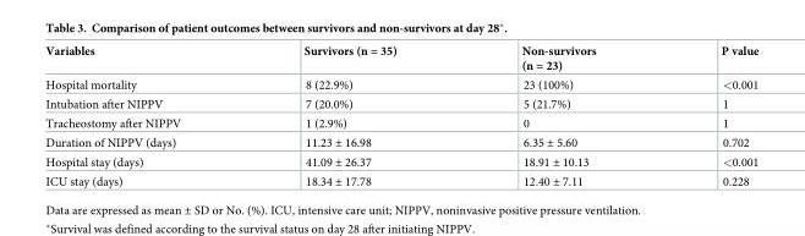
<table><thead><tr><td>Variables</td><td>Survivors (n = 35)</td><td>Non-survivors (n = 23)</td><td>P value</td></tr></thead><tbody><tr><td>Hospital mortality</td><td>8 (22.9%)</td><td>23 (100%)</td><td>&lt;0.001</td></tr><tr><td>Intubation after NIPPV</td><td>7 (20.0%)</td><td>5 (21.7%)</td><td>1</td></tr><tr><td>Tracheostomy after NIPPV</td><td>1 (2.9%)</td><td>0</td><td>1</td></tr><tr><td>Duration of NIPPV (days)</td><td>11.23 ± 16.98</td><td>6.35 ± 5.60</td><td>0.702</td></tr><tr><td>Hospital stay (days)</td><td>41.09 ± 26.37</td><td>18.91 ± 10.13</td><td>&lt;0.001</td></tr><tr><td>ICU stay (days)</td><td>18.34 ± 17.78</td><td>12.40 ± 7.11</td><td>0.228</td></tr></tbody></table>